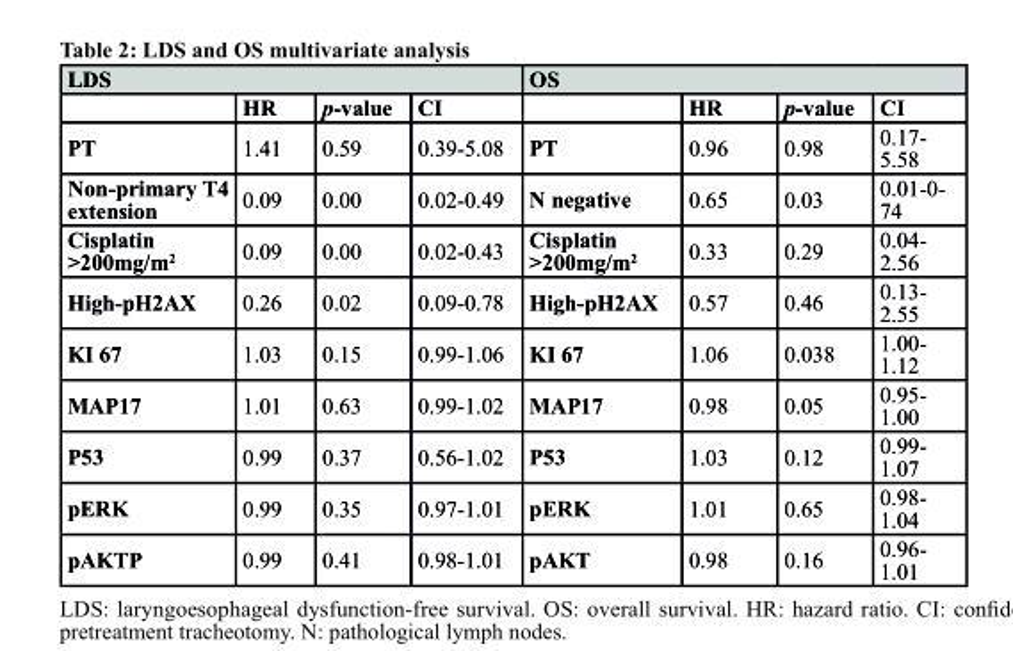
<table><thead><tr><td colspan="4">LDs</td><td colspan="4">Os</td></tr><tr><td></td><td>Hr</td><td>p-value</td><td>cI</td><td></td><td>Hr</td><td>p-value</td><td>cI</td></tr></thead><tbody><tr><td>Pt</td><td>1.41</td><td>0.59</td><td>0.39-5.08</td><td>Pt</td><td>0.96</td><td>0.98</td><td>0.17- 5.58</td></tr><tr><td>Non-primary T4 extension</td><td>0.09</td><td>0.00</td><td>0.02-0.49</td><td>N negative</td><td>0.65</td><td>0.03</td><td>0.01-0- 74</td></tr><tr><td>cisplatin &gt;200mg/m<sup>2</sup></td><td>0.09</td><td>0.00</td><td>0.02-0.43</td><td>cisplatin &gt;200mg/m<sup>2</sup></td><td>0.33</td><td>0.29</td><td>0.04- 2.56</td></tr><tr><td>High-pH2AX</td><td>0.26</td><td>0.02</td><td>0.09-0.78</td><td>High-pH2AX</td><td>0.57</td><td>0.46</td><td>0.13- 2.55</td></tr><tr><td>KI 67</td><td>1.03</td><td>0.15</td><td>0.99-1.06</td><td>KI 67</td><td>1.06</td><td>0.038</td><td>1.00- 1.12</td></tr><tr><td>MAP17</td><td>1.01</td><td>0.63</td><td>0.99-1.02</td><td>MAP17</td><td>0.98</td><td>0.05</td><td>0.95- 1.00</td></tr><tr><td>P53</td><td>0.99</td><td>0.37</td><td>0.56-1.02</td><td>P53</td><td>1.03</td><td>0.12</td><td>0.99- 1.07</td></tr><tr><td>pErK</td><td>0.99</td><td>0.35</td><td>0.97-1.01</td><td>pErK</td><td>1.01</td><td>0.65</td><td>0.98- 1.04</td></tr><tr><td>pAKtP</td><td>0.99</td><td>0.41</td><td>0.98-1.01</td><td>pAKt</td><td>0.98</td><td>0.16</td><td>0.96- 1.01</td></tr></tbody></table>